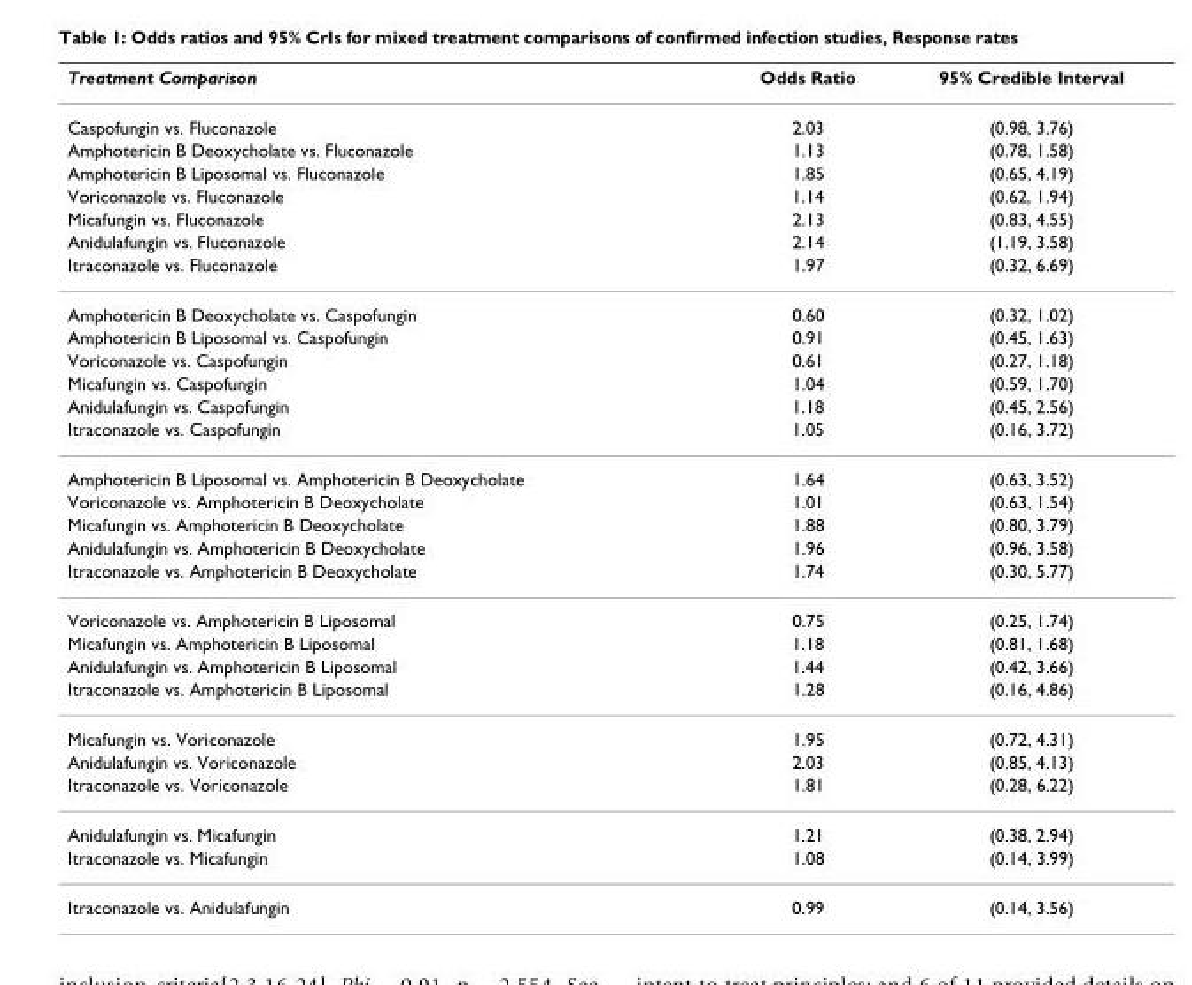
<table><thead><tr><td>Treatment Comparison</td><td>Odds Ratio</td><td>95% Credible Interval</td></tr></thead><tbody><tr><td>Caspofungin vs. Fluconazole</td><td>2.03</td><td>(0.98, 3.76)</td></tr><tr><td>Amphotericin B Deoxycholate vs. Fluconazole</td><td>1.13</td><td>(0.78, 1.58)</td></tr><tr><td>Amphotericin B Liposomal vs. Fluconazole</td><td>1.85</td><td>(0.65, 4.19)</td></tr><tr><td>Voriconazole vs. Fluconazole</td><td>1.14</td><td>(0.62, 1.94)</td></tr><tr><td>Micafungin vs. Fluconazole</td><td>2.13</td><td>(0.83, 4.55)</td></tr><tr><td>Anidulafungin vs. Fluconazole</td><td>2.14</td><td>(1.19, 3.58)</td></tr><tr><td>Itraconazole vs. Fluconazole</td><td>1.97</td><td>(0.32, 6.69)</td></tr><tr><td>Amphotericin B Deoxycholate vs. Caspofungin</td><td>0.60</td><td>(0.32, 1.02)</td></tr><tr><td>Amphotericin B Liposomal vs. Caspofungin</td><td>0.91</td><td>(0.45, 1.63)</td></tr><tr><td>Voriconazole vs. Caspofungin</td><td>0.61</td><td>(0.27, 1.18)</td></tr><tr><td>Micafungin vs. Caspofungin</td><td>1.04</td><td>(0.59, 1.70)</td></tr><tr><td>Anidulafungin vs. Caspofungin</td><td>1.18</td><td>(0.45, 2.56)</td></tr><tr><td>Itraconazole vs. Caspofungin</td><td>1.05</td><td>(0.16, 3.72)</td></tr><tr><td>Amphotericin B Liposomal vs. Amphotericin B Deoxycholate</td><td>1.64</td><td>(0.63, 3.52)</td></tr><tr><td>Voriconazole vs. Amphotericin B Deoxycholate</td><td>1.01</td><td>(0.63, 1.54)</td></tr><tr><td>Micafungin vs. Amphotericin B Deoxycholate</td><td>1.88</td><td>(0.80, 3.79)</td></tr><tr><td>Anidulafungin vs. Amphotericin B Deoxycholate</td><td>1.96</td><td>(0.96, 3.58)</td></tr><tr><td>Itraconazole vs. Amphotericin B Deoxycholate</td><td>1.74</td><td>(0.30, 5.77)</td></tr><tr><td>Voriconazole vs. Amphotericin B Liposomal</td><td>0.75</td><td>(0.25, 1.74)</td></tr><tr><td>Micafungin vs. Amphotericin B Liposomal</td><td>1.18</td><td>(0.81, 1.68)</td></tr><tr><td>Anidulafungin vs. Amphotericin B Liposomal</td><td>1.44</td><td>(0.42, 3.66)</td></tr><tr><td>Itraconazole vs. Amphotericin B Liposomal</td><td>1.28</td><td>(0.16, 4.86)</td></tr><tr><td>Micafungin vs. Voriconazole</td><td>1.95</td><td>(0.72, 4.31)</td></tr><tr><td>Anidulafungin vs. Voriconazole</td><td>2.03</td><td>(0.85, 4.13)</td></tr><tr><td>Itraconazole vs. Voriconazole</td><td>1.81</td><td>(0.28, 6.22)</td></tr><tr><td>Anidulafungin vs. Micafungin</td><td>1.21</td><td>(0.38, 2.94)</td></tr><tr><td>Itraconazole vs. Micafungin</td><td>1.08</td><td>(0.14, 3.99)</td></tr><tr><td>Itraconazole vs. Anidulafungin</td><td>0.99</td><td>(0.14, 3.56)</td></tr></tbody></table>